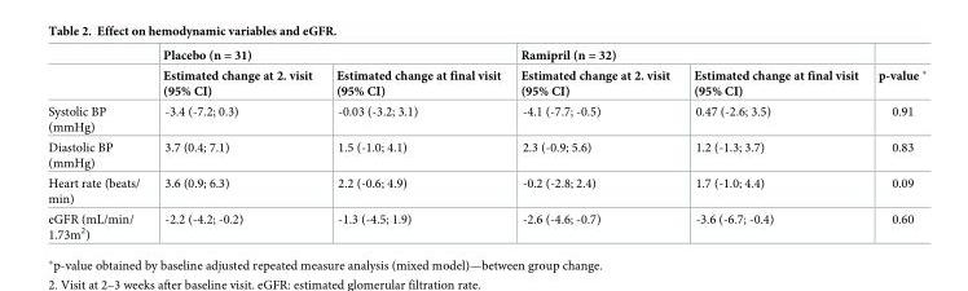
<table><thead><tr><td rowspan="2"></td><td colspan="2">Placebo (n = 31)</td><td colspan="2">Ramipril (n = 32)</td><td rowspan="2">p-value</td></tr><tr><td>Estimated change at 2. visit (95% CI)</td><td>Estimated change at final visit (95% CI)</td><td>Estimated change at 2. visit (95% CI)</td><td>Estimated change at final visit (95% CI)</td></tr></thead><tbody><tr><td>Systolic BP (mmHg)</td><td>-3.4 (-7.2; 0.3)</td><td>-0.03 (-3.2; 3.1)</td><td>-4.1 (-7.7; -0.5)</td><td>0.47 (-2.6; 3.5)</td><td>0.91</td></tr><tr><td>Diastolic BP (mmHg)</td><td>3.7 (0.4; 7.1)</td><td>1.5 (-1.0; 4.1)</td><td>2.3 (-0.9; 5.6)</td><td>1.2 (-1.3; 3.7)</td><td>0.83</td></tr><tr><td>Heart rate (beats/ min)</td><td>3.6 (0.9; 6.3)</td><td>2.2 (-0.6; 4.9)</td><td>-0.2 (-2.8; 2.4)</td><td>1.7 (-1.0; 4.4)</td><td>0.09</td></tr><tr><td>eGFR (mL/min/ 1.73m<sup>2</sup>)</td><td>-2.2 (-4.2; -0.2)</td><td>-1.3 (-4.5; 1.9)</td><td>-2.6 (-4.6; -0.7)</td><td>-3.6 (-6.7; -0.4)</td><td>0.60</td></tr></tbody></table>